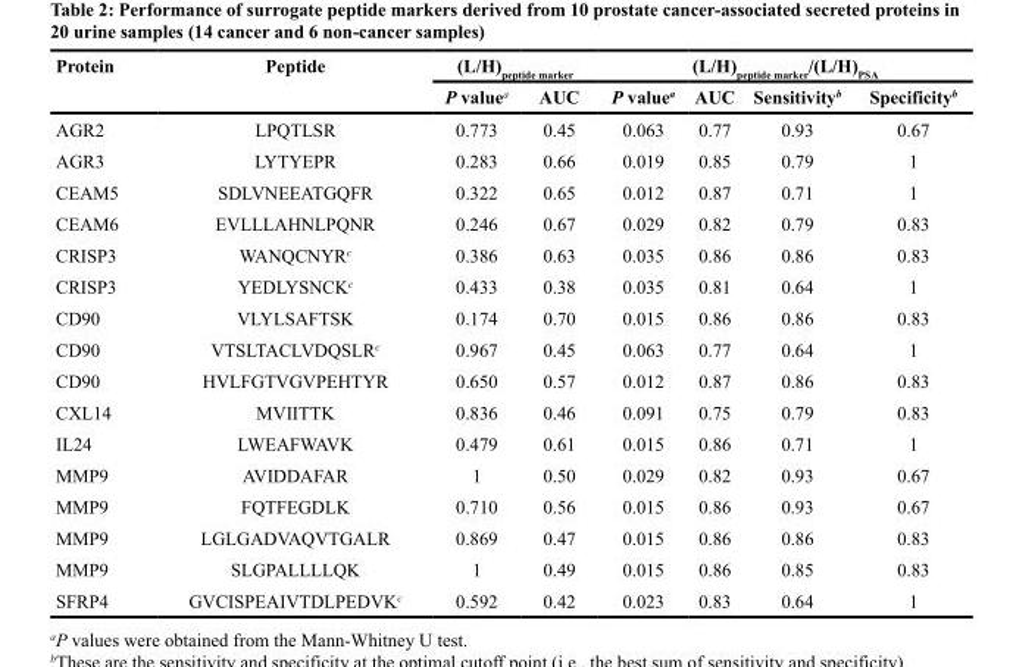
<table><thead><tr><td rowspan="2">Protein</td><td rowspan="2">Peptide</td><td colspan="2">(L/H)<sub>peptide marker</sub></td><td colspan="4">(L/H)<sub>peptide marker</sub>/(L/H)<sub>PSA</sub></td></tr><tr><td>P value<sup>a</sup></td><td>AUC</td><td>P value<sup>a</sup></td><td>AUC</td><td>Sensitivity<sup>b</sup></td><td>Specificity<sup>b</sup></td></tr></thead><tbody><tr><td>AGR2</td><td>LPQTLSR</td><td>0.773</td><td>0.45</td><td>0.063</td><td>0.77</td><td>0.93</td><td>0.67</td></tr><tr><td>AGR3</td><td>LYTYEPR</td><td>0.283</td><td>0.66</td><td>0.019</td><td>0.85</td><td>0.79</td><td>1</td></tr><tr><td>CEAM5</td><td>SDLVNEEATGQFR</td><td>0.322</td><td>0.65</td><td>0.012</td><td>0.87</td><td>0.71</td><td>1</td></tr><tr><td>CEAM6</td><td>EVLLLAHNLPQNR</td><td>0.246</td><td>0.67</td><td>0.029</td><td>0.82</td><td>0.79</td><td>0.83</td></tr><tr><td>CRISP3</td><td>WANQCNYR<sup>c</sup></td><td>0.386</td><td>0.63</td><td>0.035</td><td>0.86</td><td>0.86</td><td>0.83</td></tr><tr><td>CRISP3</td><td>YEDLYSNCK<sup>c</sup></td><td>0.433</td><td>0.38</td><td>0.035</td><td>0.81</td><td>0.64</td><td>1</td></tr><tr><td>CD90</td><td>VLYLSAFTSK</td><td>0.174</td><td>0.70</td><td>0.015</td><td>0.86</td><td>0.86</td><td>0.83</td></tr><tr><td>CD90</td><td>VTSLTACLVDQSLR<sup>c</sup></td><td>0.967</td><td>0.45</td><td>0.063</td><td>0.77</td><td>0.64</td><td>1</td></tr><tr><td>CD90</td><td>HVLFGTVGVPEHTYR</td><td>0.650</td><td>0.57</td><td>0.012</td><td>0.87</td><td>0.86</td><td>0.83</td></tr><tr><td>CXL14</td><td>MVIITTK</td><td>0.836</td><td>0.46</td><td>0.091</td><td>0.75</td><td>0.79</td><td>0.83</td></tr><tr><td>IL24</td><td>LWEAFWAVK</td><td>0.479</td><td>0.61</td><td>0.015</td><td>0.86</td><td>0.71</td><td>1</td></tr><tr><td>MMP9</td><td>AVIDDAFAR</td><td>1</td><td>0.50</td><td>0.029</td><td>0.82</td><td>0.93</td><td>0.67</td></tr><tr><td>MMP9</td><td>FQTFEGDLK</td><td>0.710</td><td>0.56</td><td>0.015</td><td>0.86</td><td>0.93</td><td>0.67</td></tr><tr><td>MMP9</td><td>LGLGADVAQVTGALR</td><td>0.869</td><td>0.47</td><td>0.015</td><td>0.86</td><td>0.86</td><td>0.83</td></tr><tr><td>MMP9</td><td>SLGPALLLLQK</td><td>1</td><td>0.49</td><td>0.015</td><td>0.86</td><td>0.85</td><td>0.83</td></tr><tr><td>SFRP4</td><td>GVCISPEAIVTDLPEDVK<sup>c</sup></td><td>0.592</td><td>0.42</td><td>0.023</td><td>0.83</td><td>0.64</td><td>1</td></tr></tbody></table>